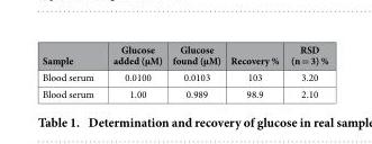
<table><thead><tr><td>Sample</td><td>Glucose added (μM)</td><td>Glucose found (μM)</td><td>Recovery %</td><td>RSD (n = 3) %</td></tr></thead><tbody><tr><td>Blood serum</td><td>0.0100</td><td>0.0103</td><td>103</td><td>3.20</td></tr><tr><td>Blood serum</td><td>1.00</td><td>0.989</td><td>98.9</td><td>2.10</td></tr></tbody></table>